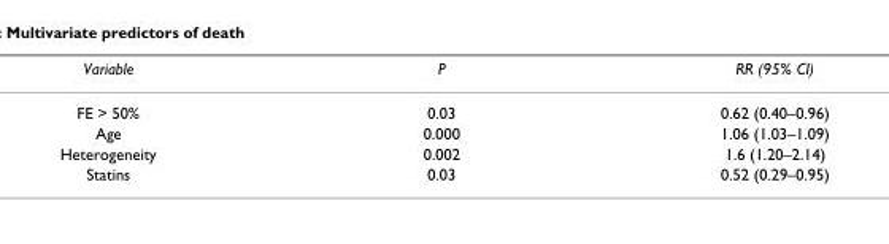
<table><thead><tr><td>Variable</td><td>P</td><td>RR (95% CI)</td></tr></thead><tbody><tr><td>FE &gt; 50%</td><td>0.03</td><td>0.62 (0.40–0.96)</td></tr><tr><td>Age</td><td>0.000</td><td>1.06 (1.03–1.09)</td></tr><tr><td>Heterogeneity</td><td>0.002</td><td>1.6 (1.20–2.14)</td></tr><tr><td>Statins</td><td>0.03</td><td>0.52 (0.29–0.95)</td></tr></tbody></table>